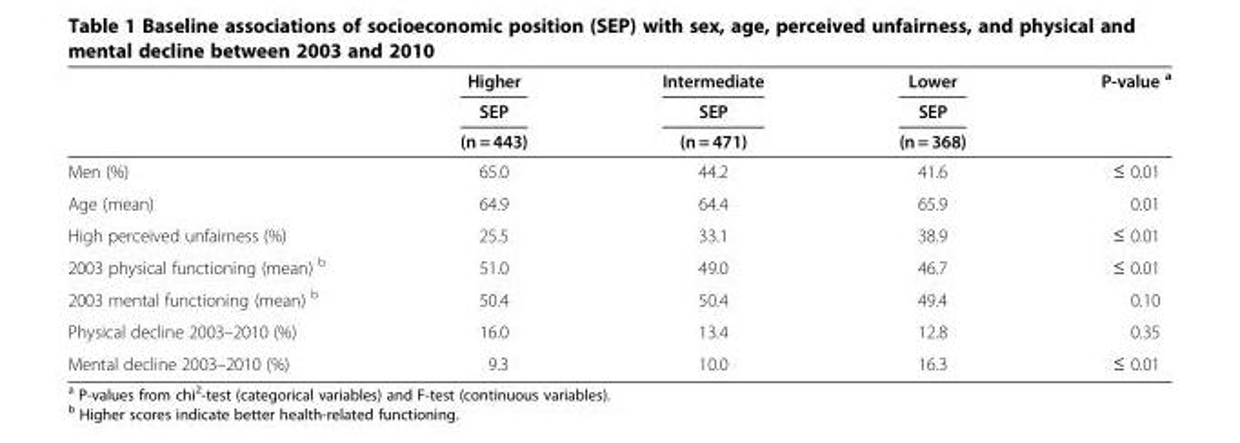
<table><thead><tr><td rowspan="3"></td><td rowspan="3">Higher SEP (n = 443)</td><td rowspan="3">Intermediate SEP (n = 471)</td><td rowspan="3">Lower SEP (n = 368)</td><td rowspan="3">P-value <sup>a</sup></td></tr><tr></tr><tr></tr></thead><tbody><tr><td>Men (%)</td><td>65.0</td><td>44.2</td><td>41.6</td><td>≤ 0.01</td></tr><tr><td>Age (mean)</td><td>64.9</td><td>64.4</td><td>65.9</td><td>0.01</td></tr><tr><td>High perceived unfairness (%)</td><td>25.5</td><td>33.1</td><td>38.9</td><td>≤ 0.01</td></tr><tr><td>2003 physical functioning (mean) <sup>b</sup></td><td>51.0</td><td>49.0</td><td>46.7</td><td>≤ 0.01</td></tr><tr><td>2003 mental functioning (mean) <sup>b</sup></td><td>50.4</td><td>50.4</td><td>49.4</td><td>0.10</td></tr><tr><td>Physical decline 2003–2010 (%)</td><td>16.0</td><td>13.4</td><td>12.8</td><td>0.35</td></tr><tr><td>Mental decline 2003–2010 (%)</td><td>9.3</td><td>10.0</td><td>16.3</td><td>≤ 0.01</td></tr></tbody></table>